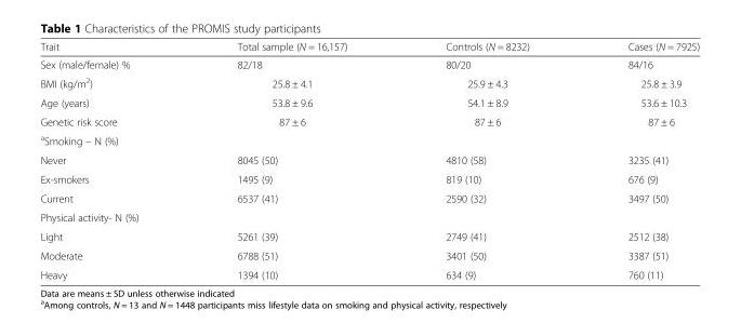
<table><thead><tr><td>Trait</td><td>Total sample (N = 16,157)</td><td>Controls (N = 8232)</td><td>Cases (N = 7925)</td></tr></thead><tbody><tr><td>Sex (male/female) %</td><td>82/18</td><td>80/20</td><td>84/16</td></tr><tr><td>BMI (kg/m<sup>2</sup>)</td><td>25.8 ± 4.1</td><td>25.9 ± 4.3</td><td>25.8 ± 3.9</td></tr><tr><td>Age (years)</td><td>53.8 ± 9.6</td><td>54.1 ± 8.9</td><td>53.6 ± 10.3</td></tr><tr><td>Genetic risk score</td><td>87 ± 6</td><td>87 ± 6</td><td>87 ± 6</td></tr><tr><td colspan="4"><sup>a</sup>Smoking – N (%)</td></tr><tr><td>Never</td><td>8045 (50)</td><td>4810 (58)</td><td>3235 (41)</td></tr><tr><td>Ex-smokers</td><td>1495 (9)</td><td>819 (10)</td><td>676 (9)</td></tr><tr><td>Current</td><td>6537 (41)</td><td>2590 (32)</td><td>3497 (50)</td></tr><tr><td colspan="4">Physical activity- N (%)</td></tr><tr><td>Light</td><td>5261 (39)</td><td>2749 (41)</td><td>2512 (38)</td></tr><tr><td>Moderate</td><td>6788 (51)</td><td>3401 (50)</td><td>3387 (51)</td></tr><tr><td>Heavy</td><td>1394 (10)</td><td>634 (9)</td><td>760 (11)</td></tr></tbody></table>